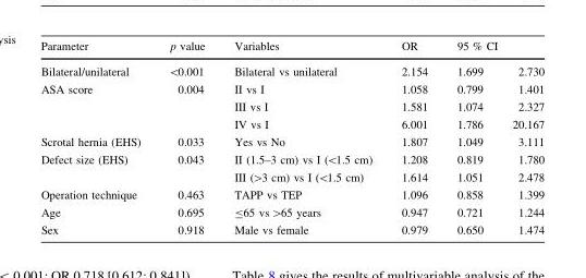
<table><thead><tr><td rowspan="2">Parameter Bilateral/unilateral</td><td rowspan="2">p value &lt;0.001</td><td rowspan="2">Variables Bilateral vs unilateral</td><td rowspan="2">OR 2.154</td><td colspan="2">95 % CI</td></tr><tr><td>1.699</td><td>2.730</td></tr></thead><tbody><tr><td rowspan="3">ASA score</td><td rowspan="3">0.004</td><td>II vs I</td><td>1.058</td><td>0.799</td><td>1.401</td></tr><tr><td>III vs I</td><td>1.581</td><td>1.074</td><td>2.327</td></tr><tr><td>IV vs I</td><td>6.001</td><td>1.786</td><td>20.167</td></tr><tr><td>Scrotal hernia (EHS)</td><td>0.033</td><td>Yes vs No</td><td>1.807</td><td>1.049</td><td>3.111</td></tr><tr><td rowspan="2">Defect size (EHS)</td><td rowspan="2">0.043</td><td>II (1.5–3 cm) vs I (&lt;1.5 cm)</td><td>1.208</td><td>0.819</td><td>1.780</td></tr><tr><td>III (&gt;3 cm) vs I (&lt;1.5 cm)</td><td>1.614</td><td>1.051</td><td>2.478</td></tr><tr><td>Operation technique</td><td>0.463</td><td>TAPP vs TEP</td><td>1.096</td><td>0.858</td><td>1.399</td></tr><tr><td>Age</td><td>0.695</td><td>≤65 vs &gt;65 years</td><td>0.947</td><td>0.721</td><td>1.244</td></tr><tr><td>Sex</td><td>0.918</td><td>Male vs female</td><td>0.979</td><td>0.650</td><td>1.474</td></tr></tbody></table>